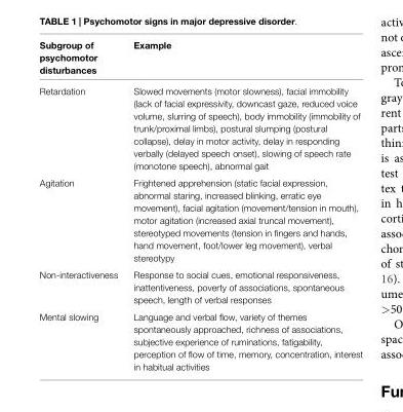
<table><thead><tr><td>Subgroup of psychomotor disturbances</td><td>Example</td></tr></thead><tbody><tr><td>Retardation</td><td>Slowed movements (motor slowness), facial immobility (lack of facial expressivity, downcast gaze, reduced voice volume, slurring of speech), body immobility (immobility of trunk/proximal limbs), postural slumping (postural collapse), delay in motor activity, delay in responding verbally (delayed speech onset), slowing of speech rate (monotone speech), abnormal gait</td></tr><tr><td>Agitation</td><td>Frightened apprehension (static facial expression, abnormal staring, increased blinking, erratic eye movement), facial agitation (movement/tension in mouth), motor agitation (increased axial truncal movement), stereotyped movements (tension in fingers and hands, hand movement, foot/lower leg movement), verbal stereotypy</td></tr><tr><td>Non-interactiveness</td><td>Response to social cues, emotional responsiveness, inattentiveness, poverty of associations, spontaneous speech, length of verbal responses</td></tr><tr><td>Mental slowing</td><td>Language and verbal flow, variety of themes spontaneously approached, richness of associations, subjective experience of ruminations, fatigability, perception of flow of time, memory, concentration, interest in habitual activities</td></tr></tbody></table>